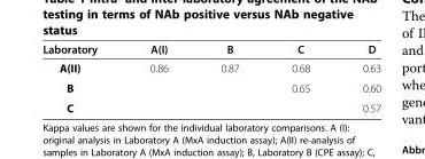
<table><thead><tr><td>Laboratory</td><td>A(I)</td><td>B</td><td>C</td><td>D</td></tr></thead><tbody><tr><td>A(II)</td><td>0.86</td><td>0.87</td><td>0.68</td><td>0.63</td></tr><tr><td>B</td><td></td><td></td><td>0.65</td><td>0.60</td></tr><tr><td>C</td><td></td><td></td><td></td><td>0.57</td></tr></tbody></table>